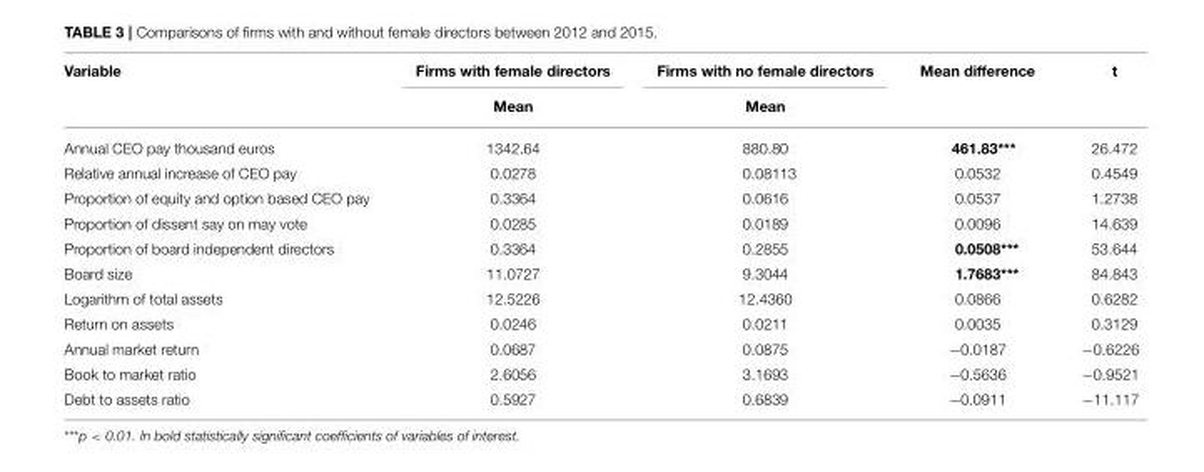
<table><thead><tr><td rowspan="2">Variable</td><td rowspan="2">Firms with female directors Mean</td><td rowspan="2">Firms with no female directors Mean</td><td rowspan="2">Mean difference</td><td rowspan="2">t</td></tr><tr></tr></thead><tbody><tr><td>Annual CEO pay thousand euros</td><td>1342.64</td><td>880.80</td><td>461.83***</td><td>26.472</td></tr><tr><td>Relative annual increase of CEO pay</td><td>0.0278</td><td>0.08113</td><td>0.0532</td><td>0.4549</td></tr><tr><td>Proportion of equity and option based CEO pay</td><td>0.3364</td><td>0.0616</td><td>0.0537</td><td>1.2738</td></tr><tr><td>Proportion of dissent say on may vote</td><td>0.0285</td><td>0.0189</td><td>0.0096</td><td>14.639</td></tr><tr><td>Proportion of board independent directors</td><td>0.3364</td><td>0.2855</td><td>0.0508***</td><td>53.644</td></tr><tr><td>Board size</td><td>11.0727</td><td>9.3044</td><td>1.7683***</td><td>84.843</td></tr><tr><td>Logarithm of total assets</td><td>12.5226</td><td>12.4360</td><td>0.0866</td><td>0.6282</td></tr><tr><td>Return on assets</td><td>0.0246</td><td>0.0211</td><td>0.0035</td><td>0.3129</td></tr><tr><td>Annual market return</td><td>0.0687</td><td>0.0875</td><td>−0.0187</td><td>−0.6226</td></tr><tr><td>Book to market ratio</td><td>2.6056</td><td>3.1693</td><td>−0.5636</td><td>−0.9521</td></tr><tr><td>Debt to assets ratio</td><td>0.5927</td><td>0.6839</td><td>−0.0911</td><td>−11.117</td></tr></tbody></table>